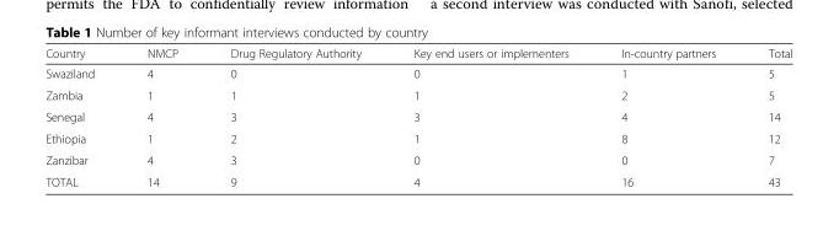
<table><thead><tr><td>Country</td><td>NMCP</td><td>Drug Regulatory Authority</td><td>Key end users or implementers</td><td>In-country partners</td><td>Total</td></tr></thead><tbody><tr><td>Swaziland</td><td>4</td><td>0</td><td>0</td><td>1</td><td>5</td></tr><tr><td>Zambia</td><td>1</td><td>1</td><td>1</td><td>2</td><td>5</td></tr><tr><td>Senegal</td><td>4</td><td>3</td><td>3</td><td>4</td><td>14</td></tr><tr><td>Ethiopia</td><td>1</td><td>2</td><td>1</td><td>8</td><td>12</td></tr><tr><td>Zanzibar</td><td>4</td><td>3</td><td>0</td><td>0</td><td>7</td></tr><tr><td>TOTAL</td><td>14</td><td>9</td><td>4</td><td>16</td><td>43</td></tr></tbody></table>